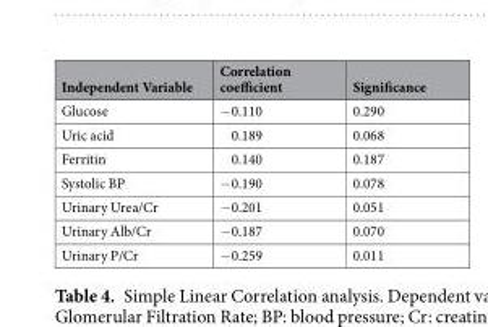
<table><thead><tr><td>Independent Variable</td><td>Correlation coefficient</td><td>Significance</td></tr></thead><tbody><tr><td>Glucose</td><td>−0.110</td><td>0.290</td></tr><tr><td>Uric acid</td><td>0.189</td><td>0.068</td></tr><tr><td>Ferritin</td><td>0.140</td><td>0.187</td></tr><tr><td>Systolic BP</td><td>−0.190</td><td>0.078</td></tr><tr><td>Urinary Urea/Cr</td><td>−0.201</td><td>0.051</td></tr><tr><td>Urinary Alb/Cr</td><td>−0.187</td><td>0.070</td></tr><tr><td>Urinary P/Cr</td><td>−0.259</td><td>0.011</td></tr></tbody></table>